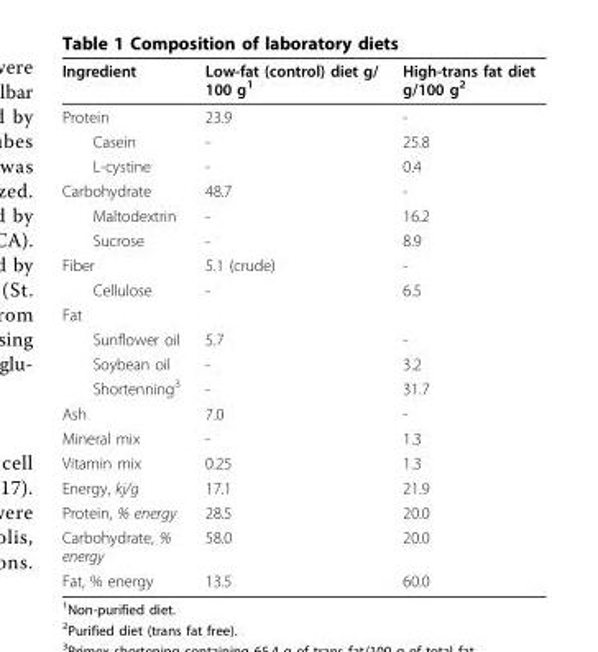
<table><thead><tr><td>Ingredient</td><td>Low-fat (control) diet g/ 100 g<sup>1</sup></td><td>High-trans fat diet g/100 g<sup>2</sup></td></tr></thead><tbody><tr><td>Protein</td><td>23.9</td><td>-</td></tr><tr><td>Casein</td><td>-</td><td>25.8</td></tr><tr><td>L-cystine</td><td>-</td><td>0.4</td></tr><tr><td>Carbohydrate</td><td>48.7</td><td>-</td></tr><tr><td>Maltodextrin</td><td>-</td><td>16.2</td></tr><tr><td>Sucrose</td><td>-</td><td>8.9</td></tr><tr><td>Fiber</td><td>5.1 (crude)</td><td>-</td></tr><tr><td>Cellulose</td><td>-</td><td>6.5</td></tr><tr><td colspan="3">Fat</td></tr><tr><td>Sunflower oil</td><td>5.7</td><td>-</td></tr><tr><td>Soybean oil</td><td>-</td><td>3.2</td></tr><tr><td>Shortenning<sup>3</sup></td><td>-</td><td>31.7</td></tr><tr><td>Ash</td><td>7.0</td><td>-</td></tr><tr><td>Mineral mix</td><td>-</td><td>1.3</td></tr><tr><td>Vitamin mix</td><td>0.25</td><td>1.3</td></tr><tr><td>Energy, kj/g</td><td>17.1</td><td>21.9</td></tr><tr><td>Protein, % energy</td><td>28.5</td><td>20.0</td></tr><tr><td>Carbohydrate, % energy</td><td>58.0</td><td>20.0</td></tr><tr><td>Fat, % energy</td><td>13.5</td><td>60.0</td></tr></tbody></table>